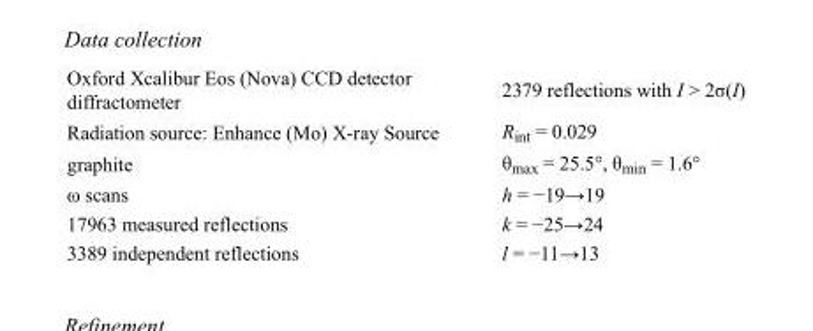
<table><tbody><tr><td>Oxford Xcalibur Eos (Nova) CCD detector diffractometer</td><td>2379 reflections with I &gt; 2σ(I)</td></tr><tr><td>Radiation source: Enhance (Mo) X-ray Source</td><td>R<sub>int</sub> = 0.029</td></tr><tr><td>graphite</td><td>θ<sub>max</sub> = 25.5°, θ<sub>min</sub> = 1.6°</td></tr><tr><td>ω scans</td><td>h = −19→19</td></tr><tr><td>17963 measured reflections</td><td>k = −25→24</td></tr><tr><td>3389 independent reflections</td><td>l = −11→13</td></tr></tbody></table>